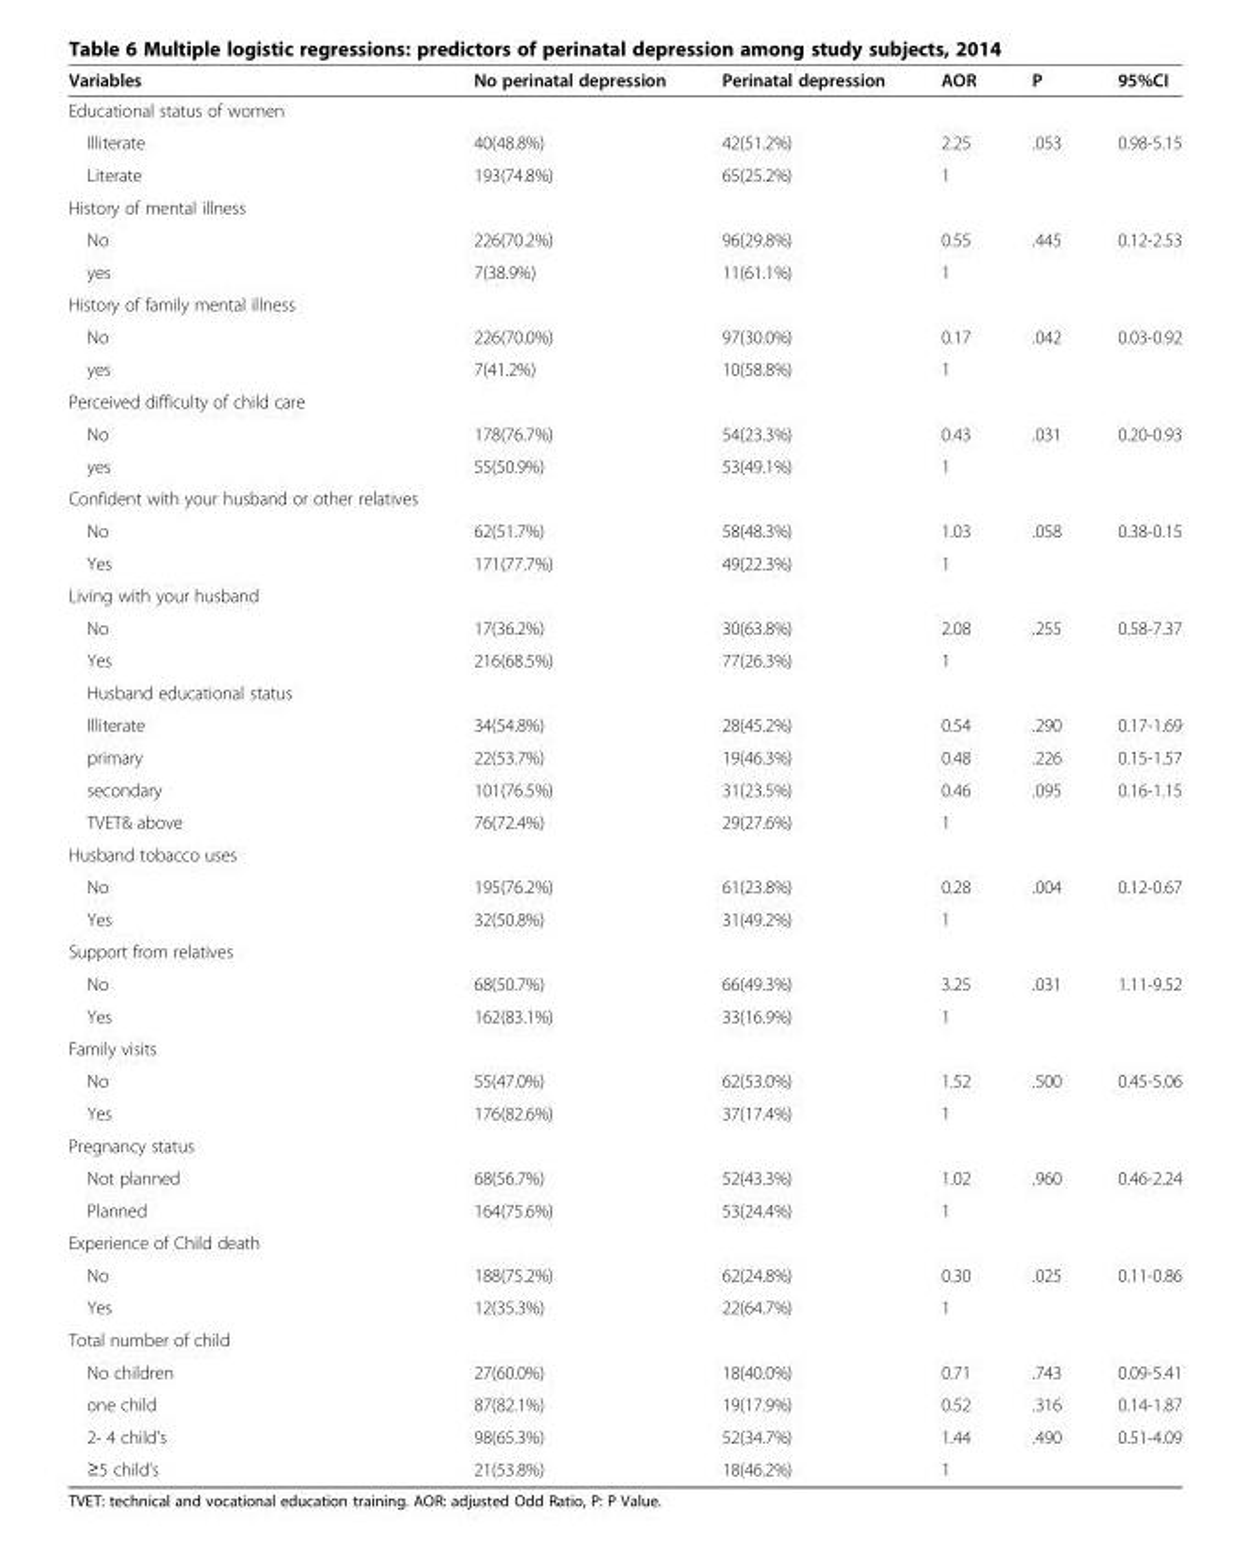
<table><thead><tr><td>Variables</td><td>No perinatal depression</td><td>Perinatal depression</td><td>AOR</td><td>P</td><td>95%CI</td></tr></thead><tbody><tr><td colspan="6">Educational status of women</td></tr><tr><td>Illiterate</td><td>40(48.8%)</td><td>42(51.2%)</td><td>2.25</td><td>.053</td><td>0.98-5.15</td></tr><tr><td>Literate</td><td>193(74.8%)</td><td>65(25.2%)</td><td>1</td><td></td><td></td></tr><tr><td colspan="6">History of mental illness</td></tr><tr><td>No</td><td>226(70.2%)</td><td>96(29.8%)</td><td>0.55</td><td>.445</td><td>0.12-2.53</td></tr><tr><td>yes</td><td>7(38.9%)</td><td>11(61.1%)</td><td>1</td><td></td><td></td></tr><tr><td colspan="6">History of family mental illness</td></tr><tr><td>No</td><td>226(70.0%)</td><td>97(30.0%)</td><td>0.17</td><td>.042</td><td>0.03-0.92</td></tr><tr><td>yes</td><td>7(41.2%)</td><td>10(58.8%)</td><td>1</td><td></td><td></td></tr><tr><td colspan="6">Perceived difficulty of child care</td></tr><tr><td>No</td><td>178(76.7%)</td><td>54(23.3%)</td><td>0.43</td><td>.031</td><td>0.20-0.93</td></tr><tr><td>yes</td><td>55(50.9%)</td><td>53(49.1%)</td><td>1</td><td></td><td></td></tr><tr><td colspan="6">Confident with your husband or other relatives</td></tr><tr><td>No</td><td>62(51.7%)</td><td>58(48.3%)</td><td>1.03</td><td>.058</td><td>0.38-0.15</td></tr><tr><td>Yes</td><td>171(77.7%)</td><td>49(22.3%)</td><td>1</td><td></td><td></td></tr><tr><td colspan="6">Living with your husband</td></tr><tr><td>No</td><td>17(36.2%)</td><td>30(63.8%)</td><td>2.08</td><td>.255</td><td>0.58-7.37</td></tr><tr><td>Yes</td><td>216(68.5%)</td><td>77(26.3%)</td><td>1</td><td></td><td></td></tr><tr><td colspan="6">Husband educational status</td></tr><tr><td>Illiterate</td><td>34(54.8%)</td><td>28(45.2%)</td><td>0.54</td><td>.290</td><td>0.17-1.69</td></tr><tr><td>primary</td><td>22(53.7%)</td><td>19(46.3%)</td><td>0.48</td><td>.226</td><td>0.15-1.57</td></tr><tr><td>secondary</td><td>101(76.5%)</td><td>31(23.5%)</td><td>0.46</td><td>.095</td><td>0.16-1.15</td></tr><tr><td>TVET&amp; above</td><td>76(72.4%)</td><td>29(27.6%)</td><td>1</td><td></td><td></td></tr><tr><td colspan="6">Husband tobacco uses</td></tr><tr><td>No</td><td>195(76.2%)</td><td>61(23.8%)</td><td>0.28</td><td>.004</td><td>0.12-0.67</td></tr><tr><td>Yes</td><td>32(50.8%)</td><td>31(49.2%)</td><td>1</td><td></td><td></td></tr><tr><td colspan="6">Support from relatives</td></tr><tr><td>No</td><td>68(50.7%)</td><td>66(49.3%)</td><td>3.25</td><td>.031</td><td>1.11-9.52</td></tr><tr><td>Yes</td><td>162(83.1%)</td><td>33(16.9%)</td><td>1</td><td></td><td></td></tr><tr><td colspan="6">Family visits</td></tr><tr><td>No</td><td>55(47.0%)</td><td>62(53.0%)</td><td>1.52</td><td>.500</td><td>0.45-5.06</td></tr><tr><td>Yes</td><td>176(82.6%)</td><td>37(17.4%)</td><td>1</td><td></td><td></td></tr><tr><td colspan="6">Pregnancy status</td></tr><tr><td>Not planned</td><td>68(56.7%)</td><td>52(43.3%)</td><td>1.02</td><td>.960</td><td>0.46-2.24</td></tr><tr><td>Planned</td><td>164(75.6%)</td><td>53(24.4%)</td><td>1</td><td></td><td></td></tr><tr><td colspan="6">Experience of Child death</td></tr><tr><td>No</td><td>188(75.2%)</td><td>62(24.8%)</td><td>0.30</td><td>.025</td><td>0.11-0.86</td></tr><tr><td>Yes</td><td>12(35.3%)</td><td>22(64.7%)</td><td>1</td><td></td><td></td></tr><tr><td colspan="6">Total number of child</td></tr><tr><td>No children</td><td>27(60.0%)</td><td>18(40.0%)</td><td>0.71</td><td>.743</td><td>0.09-5.41</td></tr><tr><td>one child</td><td>87(82.1%)</td><td>19(17.9%)</td><td>0.52</td><td>.316</td><td>0.14-1.87</td></tr><tr><td>2- 4 child’s</td><td>98(65.3%)</td><td>52(34.7%)</td><td>1.44</td><td>.490</td><td>0.51-4.09</td></tr><tr><td>≥5 child’s</td><td>21(53.8%)</td><td>18(46.2%)</td><td>1</td><td></td><td></td></tr></tbody></table>